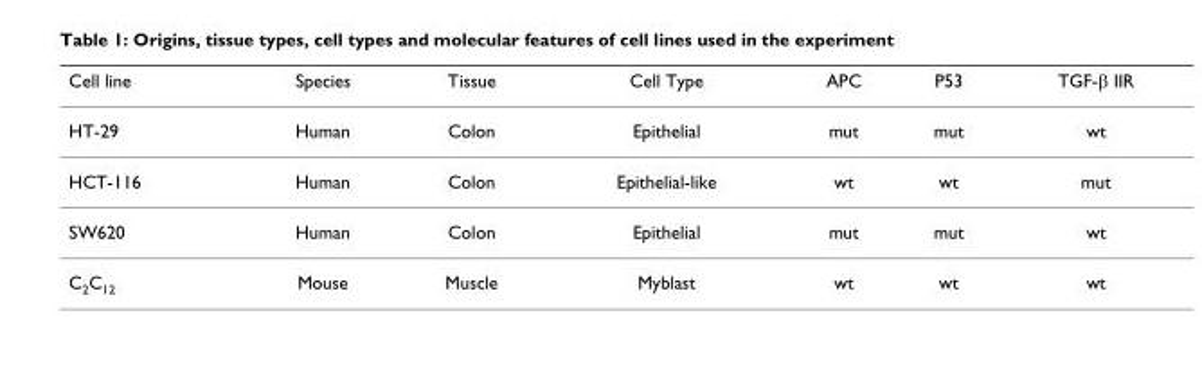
<table><thead><tr><td>Cell line</td><td>Species</td><td>Tissue</td><td>Cell Type</td><td>APC</td><td>P53</td><td>TGF-β IIR</td></tr></thead><tbody><tr><td>HT-29</td><td>Human</td><td>Colon</td><td>Epithelial</td><td>mut</td><td>mut</td><td>wt</td></tr><tr><td>HCT-116</td><td>Human</td><td>Colon</td><td>Epithelial-like</td><td>wt</td><td>wt</td><td>mut</td></tr><tr><td>SW620</td><td>Human</td><td>Colon</td><td>Epithelial</td><td>mut</td><td>mut</td><td>wt</td></tr><tr><td>C<sub>2</sub>C<sub>12</sub></td><td>Mouse</td><td>Muscle</td><td>Myblast</td><td>wt</td><td>wt</td><td>wt</td></tr></tbody></table>